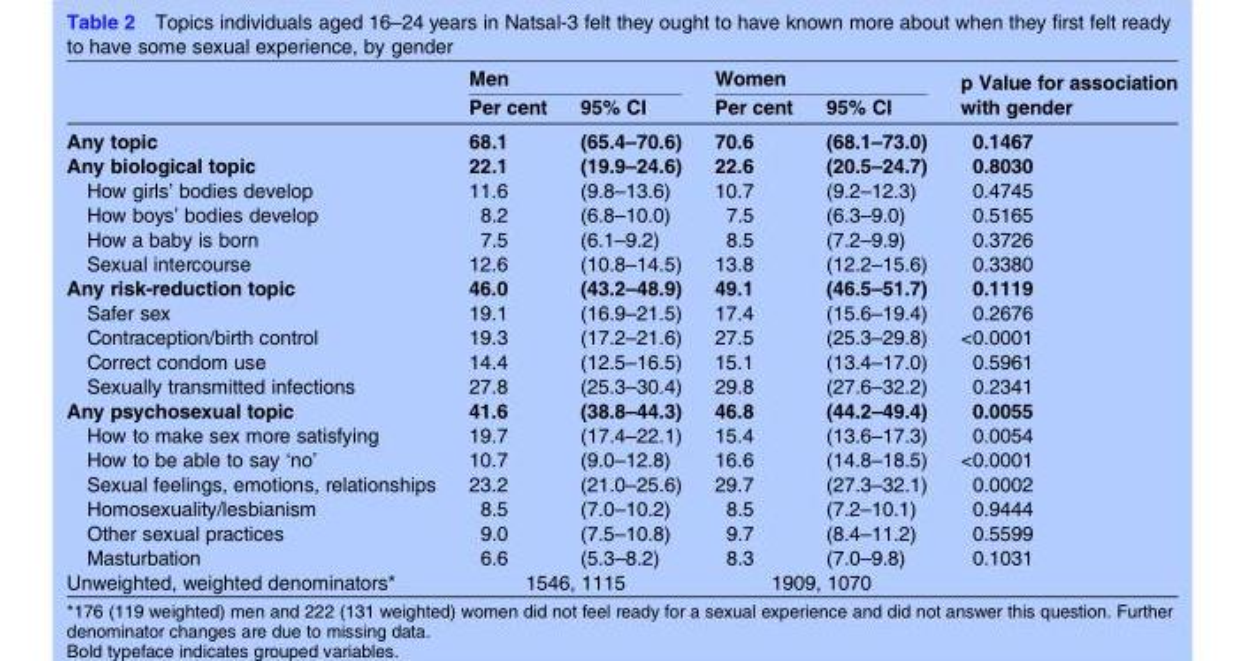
<table><thead><tr><td rowspan="2"></td><td colspan="2">Men</td><td colspan="2">Women</td><td rowspan="2">p Value for association with gender</td></tr><tr><td>Per cent</td><td>95% CI</td><td>Per cent</td><td>95% CI</td></tr></thead><tbody><tr><td>Any topic</td><td>68.1</td><td>(65.4–70.6)</td><td>70.6</td><td>(68.1–73.0)</td><td>0.1467</td></tr><tr><td>Any biological topic</td><td>22.1</td><td>(19.9–24.6)</td><td>22.6</td><td>(20.5–24.7)</td><td>0.8030</td></tr><tr><td>How girls’ bodies develop</td><td>11.6</td><td>(9.8–13.6)</td><td>10.7</td><td>(9.2–12.3)</td><td>0.4745</td></tr><tr><td>How boys’ bodies develop</td><td>8.2</td><td>(6.8–10.0)</td><td>7.5</td><td>(6.3–9.0)</td><td>0.5165</td></tr><tr><td>How a baby is born</td><td>7.5</td><td>(6.1–9.2)</td><td>8.5</td><td>(7.2–9.9)</td><td>0.3726</td></tr><tr><td>Sexual intercourse</td><td>12.6</td><td>(10.8–14.5)</td><td>13.8</td><td>(12.2–15.6)</td><td>0.3380</td></tr><tr><td>Any risk-reduction topic</td><td>46.0</td><td>(43.2–48.9)</td><td>49.1</td><td>(46.5–51.7)</td><td>0.1119</td></tr><tr><td>Safer sex</td><td>19.1</td><td>(16.9–21.5)</td><td>17.4</td><td>(15.6–19.4)</td><td>0.2676</td></tr><tr><td>Contraception/birth control</td><td>19.3</td><td>(17.2–21.6)</td><td>27.5</td><td>(25.3–29.8)</td><td>&lt;0.0001</td></tr><tr><td>Correct condom use</td><td>14.4</td><td>(12.5–16.5)</td><td>15.1</td><td>(13.4–17.0)</td><td>0.5961</td></tr><tr><td>Sexually transmitted infections</td><td>27.8</td><td>(25.3–30.4)</td><td>29.8</td><td>(27.6–32.2)</td><td>0.2341</td></tr><tr><td>Any psychosexual topic</td><td>41.6</td><td>(38.8–44.3)</td><td>46.8</td><td>(44.2–49.4)</td><td>0.0055</td></tr><tr><td>How to make sex more satisfying</td><td>19.7</td><td>(17.4–22.1)</td><td>15.4</td><td>(13.6–17.3)</td><td>0.0054</td></tr><tr><td>How to be able to say ‘no’</td><td>10.7</td><td>(9.0–12.8)</td><td>16.6</td><td>(14.8–18.5)</td><td>&lt;0.0001</td></tr><tr><td>Sexual feelings, emotions, relationships</td><td>23.2</td><td>(21.0–25.6)</td><td>29.7</td><td>(27.3–32.1)</td><td>0.0002</td></tr><tr><td>Homosexuality/lesbianism</td><td>8.5</td><td>(7.0–10.2)</td><td>8.5</td><td>(7.2–10.1)</td><td>0.9444</td></tr><tr><td>Other sexual practices</td><td>9.0</td><td>(7.5–10.8)</td><td>9.7</td><td>(8.4–11.2)</td><td>0.5599</td></tr><tr><td>Masturbation</td><td>6.6</td><td>(5.3–8.2)</td><td>8.3</td><td>(7.0–9.8)</td><td>0.1031</td></tr><tr><td>Unweighted, weighted denominators*</td><td colspan="2">1546, 1115</td><td colspan="2">1909, 1070</td><td></td></tr></tbody></table>